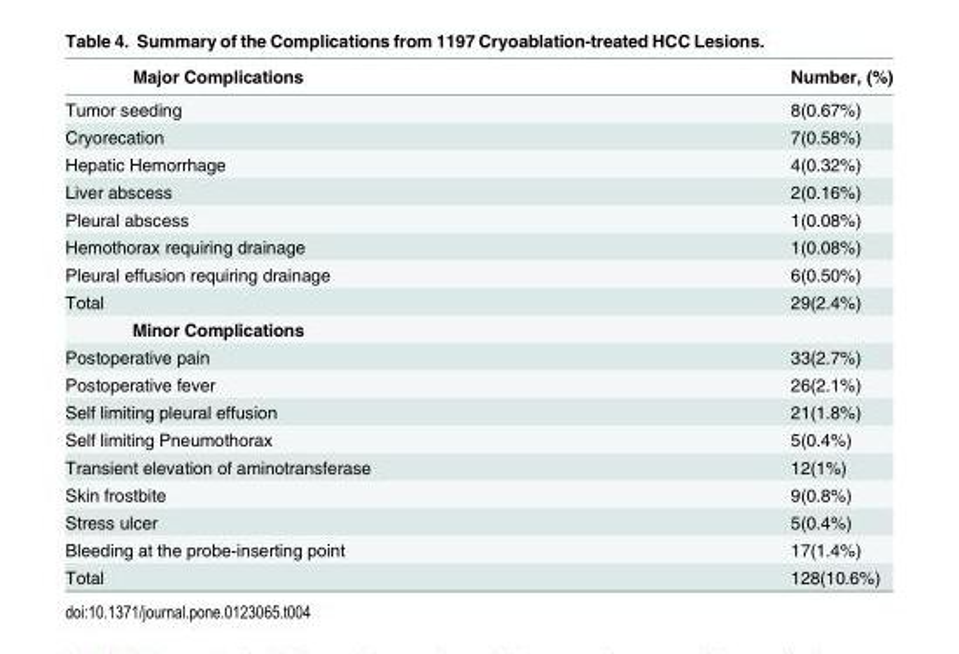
<table><thead><tr><td>Major Complications</td><td>Number, (%)</td></tr></thead><tbody><tr><td>Tumor seeding</td><td>8(0.67%)</td></tr><tr><td>Cryorecation</td><td>7(0.58%)</td></tr><tr><td>Hepatic Hemorrhage</td><td>4(0.32%)</td></tr><tr><td>Liver abscess</td><td>2(0.16%)</td></tr><tr><td>Pleural abscess</td><td>1(0.08%)</td></tr><tr><td>Hemothorax requiring drainage</td><td>1(0.08%)</td></tr><tr><td>Pleural effusion requiring drainage</td><td>6(0.50%)</td></tr><tr><td>Total</td><td>29(2.4%)</td></tr><tr><td colspan="2">Minor Complications</td></tr><tr><td>Postoperative pain</td><td>33(2.7%)</td></tr><tr><td>Postoperative fever</td><td>26(2.1%)</td></tr><tr><td>Self limiting pleural effusion</td><td>21(1.8%)</td></tr><tr><td>Self limiting Pneumothorax</td><td>5(0.4%)</td></tr><tr><td>Transient elevation of aminotransferase</td><td>12(1%)</td></tr><tr><td>Skin frostbite</td><td>9(0.8%)</td></tr><tr><td>Stress ulcer</td><td>5(0.4%)</td></tr><tr><td>Bleeding at the probe-inserting point</td><td>17(1.4%)</td></tr><tr><td>Total</td><td>128(10.6%)</td></tr></tbody></table>